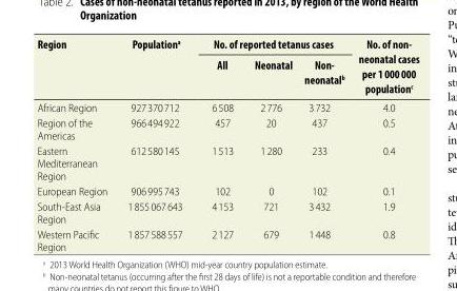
<table><thead><tr><td rowspan="2">Region</td><td rowspan="2">Population<sup>a</sup></td><td colspan="3">No. of reported tetanus cases</td><td rowspan="2">No. of non- neonatal cases per 1 000 000 population<sup>c</sup></td></tr><tr><td>All</td><td>Neonatal</td><td>Non- neonatal<sup>b</sup></td></tr></thead><tbody><tr><td>African Region</td><td>927 370 712</td><td>6 508</td><td>2 776</td><td>3 732</td><td>4.0</td></tr><tr><td>Region of the Americas</td><td>966 494 922</td><td>457</td><td>20</td><td>437</td><td>0.5</td></tr><tr><td>Eastern Mediterranean Region</td><td>612 580 145</td><td>1 513</td><td>1 280</td><td>233</td><td>0.4</td></tr><tr><td>European Region</td><td>906 995 743</td><td>102</td><td>0</td><td>102</td><td>0.1</td></tr><tr><td>South-East Asia Region</td><td>1 855 067 643</td><td>4 153</td><td>721</td><td>3 432</td><td>1.9</td></tr><tr><td>Western Pacific Region</td><td>1 857 588 557</td><td>2 127</td><td>679</td><td>1 448</td><td>0.8</td></tr></tbody></table>